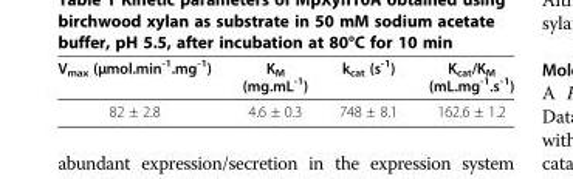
<table><thead><tr><td>V<sub>max</sub> (μmol.min<sup>-1</sup>.mg<sup>-1</sup>)</td><td>K<sub>M</sub> (mg.mL<sup>-1</sup>)</td><td>k<sub>cat</sub> (s<sup>-1</sup>)</td><td>K<sub>cat</sub>/K<sub>M</sub> (mL.mg<sup>-1</sup>.s<sup>-1</sup>)</td></tr></thead><tbody><tr><td>82 ± 2.8</td><td>4.6 ± 0.3</td><td>748 ± 8.1</td><td>162.6 ± 1.2</td></tr></tbody></table>